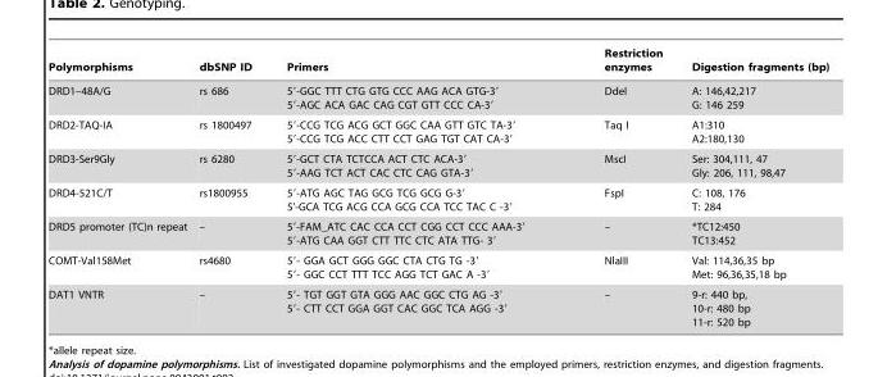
<table><thead><tr><td>Polymorphisms</td><td>dbSNP ID</td><td>Primers</td><td>Restriction enzymes</td><td>Digestion fragments (bp)</td></tr></thead><tbody><tr><td>DRD1–48A/G</td><td>rs 686</td><td>5′-GGC TTT CTG GTG CCC AAG ACA GTG-3′ 5′-AGC ACA GAC CAG CGT GTT CCC CA-3′</td><td>DdeI</td><td>A: 146,42,217 G: 146 259</td></tr><tr><td>DRD2-TAQ-IA</td><td>rs 1800497</td><td>5′-CCG TCG ACG GCT GGC CAA GTT GTC TA-3′ 5′-CCG TCG ACC CTT CCT GAG TGT CAT CA-3′</td><td>Taq I</td><td>A1:310 A2:180,130</td></tr><tr><td>DRD3-Ser9Gly</td><td>rs 6280</td><td>5′-GCT CTA TCTCCA ACT CTC ACA-3′ 5′-AAG TCT ACT CAC CTC CAG GTA-3′</td><td>MscI</td><td>Ser: 304,111, 47 Gly: 206, 111, 98,47</td></tr><tr><td>DRD4-521C/T</td><td>rs1800955</td><td>5′-ATG AGC TAG GCG TCG GCG G-3′ 5’-GCA TCG ACG CCA GCG CCA TCC TAC C -3′</td><td>FspI</td><td>C: 108, 176 T: 284</td></tr><tr><td>DRD5 promoter (TC)n repeat</td><td>–</td><td>5′-FAM_ATC CAC CCA CCT CGG CCT CCC AAA-3′ 5′-ATG CAA GGT CTT TTC CTC ATA TTG- 3′</td><td>–</td><td>*TC12:450 TC13:452</td></tr><tr><td>COMT-Val158Met</td><td>rs4680</td><td>5′- GGA GCT GGG GGC CTA CTG TG -3′ 5′- GGC CCT TTT TCC AGG TCT GAC A -3′</td><td>NlaIII</td><td>Val: 114,36,35 bp Met: 96,36,35,18 bp</td></tr><tr><td>DAT1 VNTR</td><td>–</td><td>5′- TGT GGT GTA GGG AAC GGC CTG AG -3′ 5′- CTT CCT GGA GGT CAC GGC TCA AGG -3′</td><td>–</td><td>9-r: 440 bp, 10-r: 480 bp 11-r: 520 bp</td></tr></tbody></table>